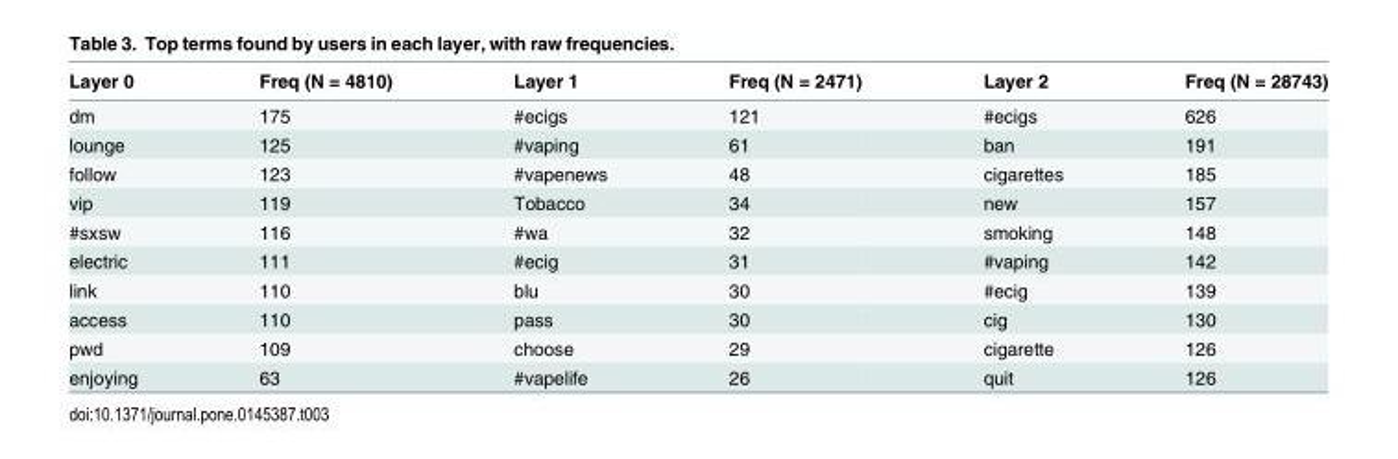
<table><thead><tr><td>Layer 0</td><td>Freq (N = 4810)</td><td>Layer 1</td><td>Freq (N = 2471)</td><td>Layer 2</td><td>Freq (N = 28743)</td></tr></thead><tbody><tr><td>dm</td><td>175</td><td>#ecigs</td><td>121</td><td>#ecigs</td><td>626</td></tr><tr><td>lounge</td><td>125</td><td>#vaping</td><td>61</td><td>ban</td><td>191</td></tr><tr><td>follow</td><td>123</td><td>#vapenews</td><td>48</td><td>cigarettes</td><td>185</td></tr><tr><td>vip</td><td>119</td><td>Tobacco</td><td>34</td><td>new</td><td>157</td></tr><tr><td>#sxsw</td><td>116</td><td>#wa</td><td>32</td><td>smoking</td><td>148</td></tr><tr><td>electric</td><td>111</td><td>#ecig</td><td>31</td><td>#vaping</td><td>142</td></tr><tr><td>link</td><td>110</td><td>blu</td><td>30</td><td>#ecig</td><td>139</td></tr><tr><td>access</td><td>110</td><td>pass</td><td>30</td><td>cig</td><td>130</td></tr><tr><td>pwd</td><td>109</td><td>choose</td><td>29</td><td>cigarette</td><td>126</td></tr><tr><td>enjoying</td><td>63</td><td>#vapelife</td><td>26</td><td>quit</td><td>126</td></tr></tbody></table>